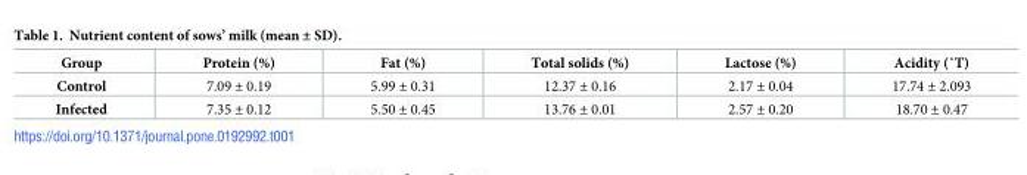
<table><thead><tr><td>Group</td><td>Protein (%)</td><td>Fat (%)</td><td>Total solids (%)</td><td>Lactose (%)</td><td>Acidity (˚T)</td></tr></thead><tbody><tr><td>Control</td><td>7.09 ± 0.19</td><td>5.99 ± 0.31</td><td>12.37 ± 0.16</td><td>2.17 ± 0.04</td><td>17.74 ± 2.093</td></tr><tr><td>Infected</td><td>7.35 ± 0.12</td><td>5.50 ± 0.45</td><td>13.76 ± 0.01</td><td>2.57 ± 0.20</td><td>18.70 ± 0.47</td></tr></tbody></table>